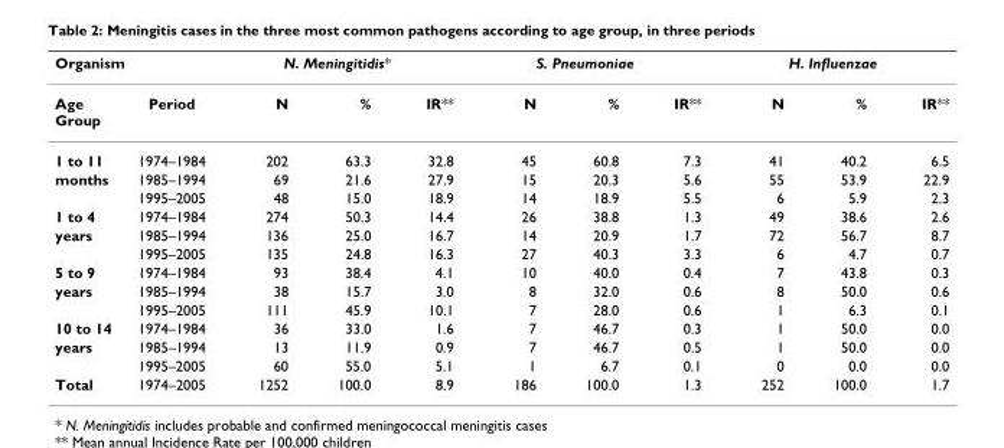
<table><thead><tr><td colspan="2">Organism</td><td colspan="3">N. Meningitidis*</td><td colspan="3">S. Pneumoniae</td><td colspan="3">H. Influenzae</td></tr><tr><td>Age Group</td><td>Period</td><td>N</td><td>%</td><td>IR**</td><td>N</td><td>%</td><td>IR**</td><td>N</td><td>%</td><td>IR**</td></tr></thead><tbody><tr><td>1 to 11</td><td>1974–1984</td><td>202</td><td>63.3</td><td>32.8</td><td>45</td><td>60.8</td><td>7.3</td><td>41</td><td>40.2</td><td>6.5</td></tr><tr><td rowspan="2">months</td><td>1985–1994</td><td>69</td><td>21.6</td><td>27.9</td><td>15</td><td>20.3</td><td>5.6</td><td>55</td><td>53.9</td><td>22.9</td></tr><tr><td>1995–2005</td><td>48</td><td>15.0</td><td>18.9</td><td>14</td><td>18.9</td><td>5.5</td><td>6</td><td>5.9</td><td>2.3</td></tr><tr><td>1 to 4</td><td>1974–1984</td><td>274</td><td>50.3</td><td>14.4</td><td>26</td><td>38.8</td><td>1.3</td><td>49</td><td>38.6</td><td>2.6</td></tr><tr><td rowspan="2">years</td><td>1985–1994</td><td>136</td><td>25.0</td><td>16.7</td><td>14</td><td>20.9</td><td>1.7</td><td>72</td><td>56.7</td><td>8.7</td></tr><tr><td>1995–2005</td><td>135</td><td>24.8</td><td>16.3</td><td>27</td><td>40.3</td><td>3.3</td><td>6</td><td>4.7</td><td>0.7</td></tr><tr><td>5 to 9</td><td>1974–1984</td><td>93</td><td>38.4</td><td>4.1</td><td>10</td><td>40.0</td><td>0.4</td><td>7</td><td>43.8</td><td>0.3</td></tr><tr><td rowspan="2">years</td><td>1985–1994</td><td>38</td><td>15.7</td><td>3.0</td><td>8</td><td>32.0</td><td>0.6</td><td>8</td><td>50.0</td><td>0.6</td></tr><tr><td>1995–2005</td><td>111</td><td>45.9</td><td>10.1</td><td>7</td><td>28.0</td><td>0.6</td><td>1</td><td>6.3</td><td>0.1</td></tr><tr><td>10 to 14</td><td>1974–1984</td><td>36</td><td>33.0</td><td>1.6</td><td>7</td><td>46.7</td><td>0.3</td><td>1</td><td>50.0</td><td>0.0</td></tr><tr><td rowspan="2">years</td><td>1985–1994</td><td>13</td><td>11.9</td><td>0.9</td><td>7</td><td>46.7</td><td>0.5</td><td>1</td><td>50.0</td><td>0.0</td></tr><tr><td>1995–2005</td><td>60</td><td>55.0</td><td>5.1</td><td>1</td><td>6.7</td><td>0.1</td><td>0</td><td>0.0</td><td>0.0</td></tr><tr><td>Total</td><td>1974–2005</td><td>1252</td><td>100.0</td><td>8.9</td><td>186</td><td>100.0</td><td>1.3</td><td>252</td><td>100.0</td><td>1.7</td></tr></tbody></table>